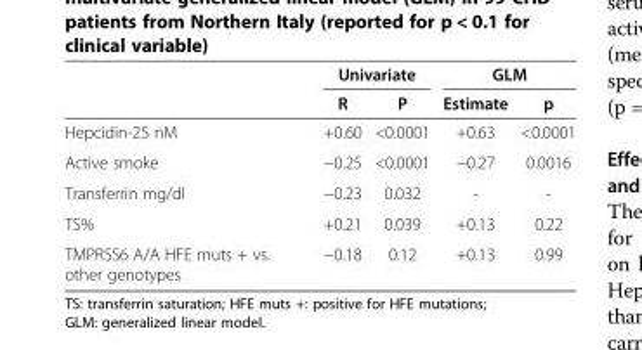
<table><thead><tr><td rowspan="2"></td><td colspan="2">Univariate</td><td colspan="2">GLM</td></tr><tr><td>R</td><td>P</td><td>Estimate</td><td>p</td></tr></thead><tbody><tr><td>Hepcidin-25 nM</td><td>+0.60</td><td>&lt;0.0001</td><td>+0.63</td><td>&lt;0.0001</td></tr><tr><td>Active smoke</td><td>−0.25</td><td>&lt;0.0001</td><td>−0.27</td><td>0.0016</td></tr><tr><td>Transferrin mg/dl</td><td>−0.23</td><td>0.032</td><td>-</td><td>-</td></tr><tr><td>TS%</td><td>+0.21</td><td>0.039</td><td>+0.13</td><td>0.22</td></tr><tr><td>TMPRSS6 A/A HFE muts + vs. other genotypes</td><td>−0.18</td><td>0.12</td><td>+0.13</td><td>0.99</td></tr></tbody></table>